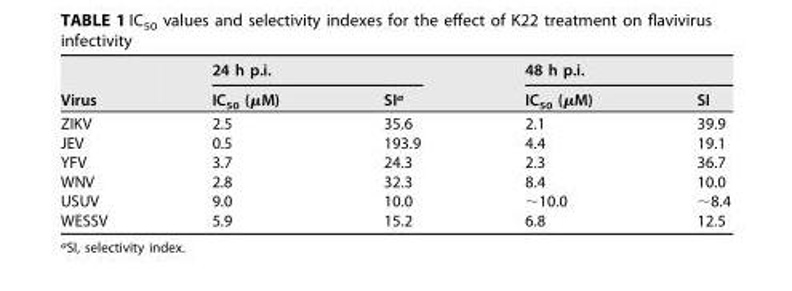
<table><thead><tr><td rowspan="2">Virus</td><td colspan="2">24 h p.i.</td><td colspan="2">48 h p.i.</td></tr><tr><td>IC<sub>50</sub> (μM)</td><td>SI<sup>a</sup></td><td>IC<sub>50</sub> (μM)</td><td>SI</td></tr></thead><tbody><tr><td>ZIKV</td><td>2.5</td><td>35.6</td><td>2.1</td><td>39.9</td></tr><tr><td>JEV</td><td>0.5</td><td>193.9</td><td>4.4</td><td>19.1</td></tr><tr><td>YFV</td><td>3.7</td><td>24.3</td><td>2.3</td><td>36.7</td></tr><tr><td>WNV</td><td>2.8</td><td>32.3</td><td>8.4</td><td>10.0</td></tr><tr><td>USUV</td><td>9.0</td><td>10.0</td><td>∼10.0</td><td>∼8.4</td></tr><tr><td>WESSV</td><td>5.9</td><td>15.2</td><td>6.8</td><td>12.5</td></tr></tbody></table>